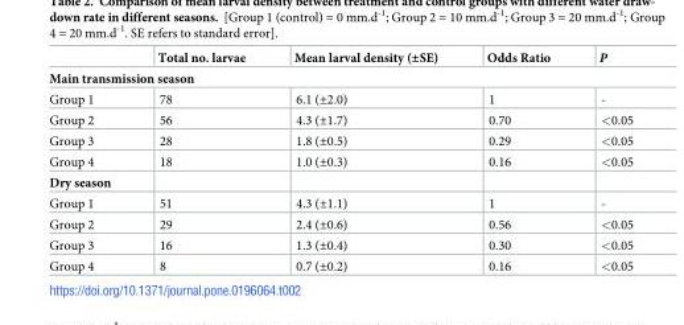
<table><thead><tr><td></td><td>Total no. larvae</td><td>Mean larval density (±SE)</td><td>Odds Ratio</td><td>P</td></tr></thead><tbody><tr><td colspan="5">Main transmission season</td></tr><tr><td>Group 1</td><td>78</td><td>6.1 (±2.0)</td><td>1</td><td>-</td></tr><tr><td>Group 2</td><td>56</td><td>4.3 (±1.7)</td><td>0.70</td><td>&lt;0.05</td></tr><tr><td>Group 3</td><td>28</td><td>1.8 (±0.5)</td><td>0.29</td><td>&lt;0.05</td></tr><tr><td>Group 4</td><td>18</td><td>1.0 (±0.3)</td><td>0.16</td><td>&lt;0.05</td></tr><tr><td colspan="5">Dry season</td></tr><tr><td>Group 1</td><td>51</td><td>4.3 (±1.1)</td><td>1</td><td>-</td></tr><tr><td>Group 2</td><td>29</td><td>2.4 (±0.6)</td><td>0.56</td><td>&lt;0.05</td></tr><tr><td>Group 3</td><td>16</td><td>1.3 (±0.4)</td><td>0.30</td><td>&lt;0.05</td></tr><tr><td>Group 4</td><td>8</td><td>0.7 (±0.2)</td><td>0.16</td><td>&lt;0.05</td></tr></tbody></table>